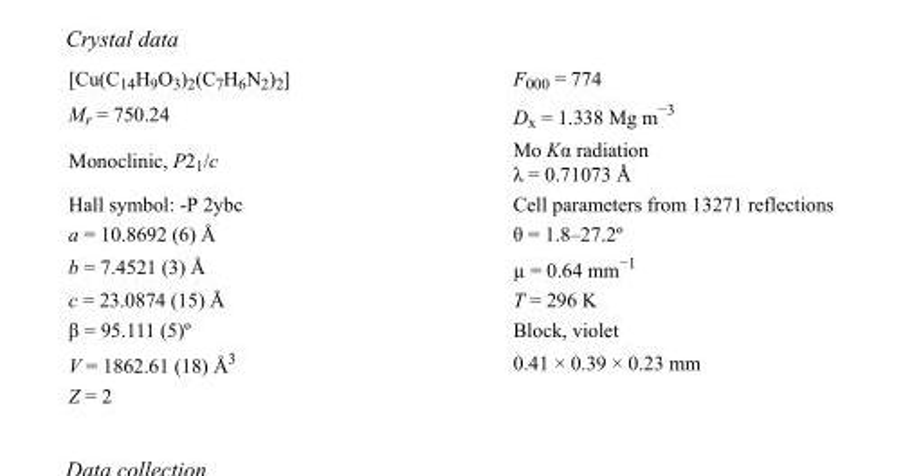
<table><tbody><tr><td>[Cu(C<sub>14</sub>H<sub>9</sub>O<sub>3</sub>)<sub>2</sub>(C<sub>7</sub>H<sub>6</sub>N<sub>2</sub>)<sub>2</sub>]</td><td>F000 = 774</td></tr><tr><td>M<sub>r</sub> = 750.24</td><td>D<sub>x</sub> = 1.338 Mg m<sup>−3</sup></td></tr><tr><td>Monoclinic, P2<sub>1</sub>/c</td><td>Mo Kα radiation λ = 0.71073 Å</td></tr><tr><td>Hall symbol: -P 2ybc</td><td>Cell parameters from 13271 reflections</td></tr><tr><td>a = 10.8692 (6) Å</td><td>θ = 1.8–27.2º</td></tr><tr><td>b = 7.4521 (3) Å</td><td>µ = 0.64 mm<sup>−1</sup></td></tr><tr><td>c = 23.0874 (15) Å</td><td>T = 296 K</td></tr><tr><td>β = 95.111 (5)º</td><td>Block, violet</td></tr><tr><td>V = 1862.61 (18) Å<sup>3</sup></td><td>0.41 × 0.39 × 0.23 mm</td></tr><tr><td>Z = 2</td><td></td></tr></tbody></table>